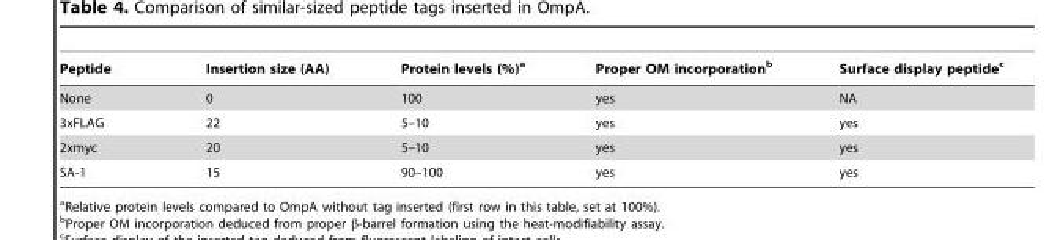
<table><thead><tr><td>Peptide</td><td>Insertion size (AA)</td><td>Protein levels (%)<sup>a</sup></td><td>Proper OM incorporation<sup>b</sup></td><td>Surface display peptide<sup>c</sup></td></tr></thead><tbody><tr><td>None</td><td>0</td><td>100</td><td>yes</td><td>NA</td></tr><tr><td>3xFLAG</td><td>22</td><td>5–10</td><td>yes</td><td>yes</td></tr><tr><td>2xmyc</td><td>20</td><td>5–10</td><td>yes</td><td>yes</td></tr><tr><td>SA-1</td><td>15</td><td>90–100</td><td>yes</td><td>yes</td></tr></tbody></table>